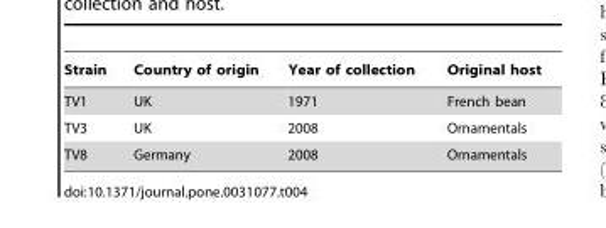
<table><thead><tr><td>Strain</td><td>Country of origin</td><td>Year of collection</td><td>Original host</td></tr></thead><tbody><tr><td>TV1</td><td>UK</td><td>1971</td><td>French bean</td></tr><tr><td>TV3</td><td>UK</td><td>2008</td><td>Ornamentals</td></tr><tr><td>TV8</td><td>Germany</td><td>2008</td><td>Ornamentals</td></tr></tbody></table>